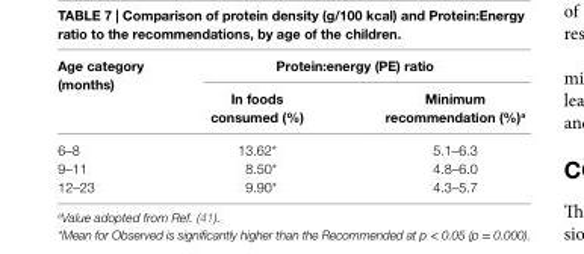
<table><thead><tr><td rowspan="2">age category (months)</td><td colspan="2">Protein:energy (Pe) ratio</td></tr><tr><td>in foods consumed (%)</td><td>Minimum recommendation (%)<sup>a</sup></td></tr></thead><tbody><tr><td>6–8</td><td>13.62*</td><td>5.1–6.3</td></tr><tr><td>9–11</td><td>8.50*</td><td>4.8–6.0</td></tr><tr><td>12–23</td><td>9.90*</td><td>4.3–5.7</td></tr></tbody></table>